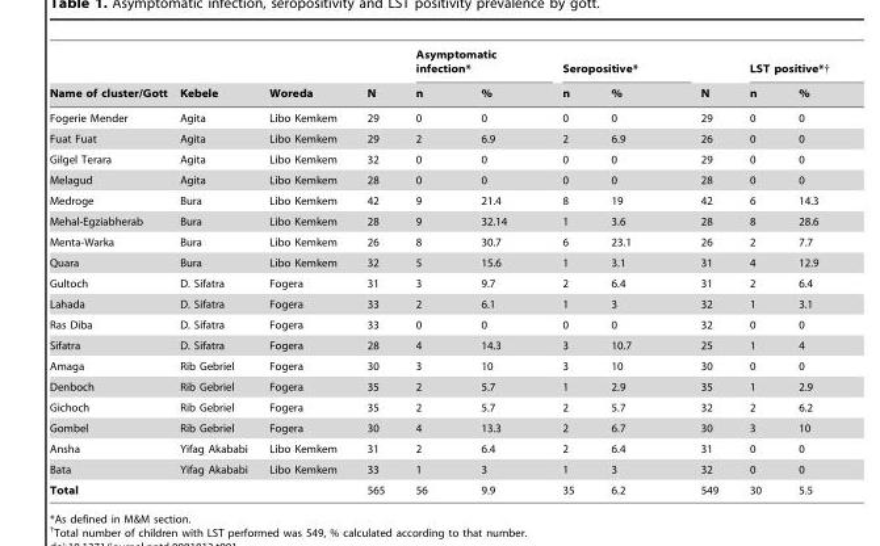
<table><thead><tr><td rowspan="2">Name of cluster/Gott</td><td rowspan="2">Kebele</td><td rowspan="2">Woreda</td><td rowspan="2">N</td><td colspan="2">Asymptomatic infection*</td><td colspan="2">Seropositive*</td><td rowspan="2">N</td><td colspan="2">LST positive*†</td></tr><tr><td>n</td><td>%</td><td>n</td><td>%</td><td>n</td><td>%</td></tr></thead><tbody><tr><td>Fogerie Mender</td><td>Agita</td><td>Libo Kemkem</td><td>29</td><td>0</td><td>0</td><td>0</td><td>0</td><td>29</td><td>0</td><td>0</td></tr><tr><td>Fuat Fuat</td><td>Agita</td><td>Libo Kemkem</td><td>29</td><td>2</td><td>6.9</td><td>2</td><td>6.9</td><td>26</td><td>0</td><td>0</td></tr><tr><td>Gilgel Terara</td><td>Agita</td><td>Libo Kemkem</td><td>32</td><td>0</td><td>0</td><td>0</td><td>0</td><td>29</td><td>0</td><td>0</td></tr><tr><td>Melagud</td><td>Agita</td><td>Libo Kemkem</td><td>28</td><td>0</td><td>0</td><td>0</td><td>0</td><td>28</td><td>0</td><td>0</td></tr><tr><td>Medroge</td><td>Bura</td><td>Libo Kemkem</td><td>42</td><td>9</td><td>21.4</td><td>8</td><td>19</td><td>42</td><td>6</td><td>14.3</td></tr><tr><td>Mehal-Egziabherab</td><td>Bura</td><td>Libo Kemkem</td><td>28</td><td>9</td><td>32.14</td><td>1</td><td>3.6</td><td>28</td><td>8</td><td>28.6</td></tr><tr><td>Menta-Warka</td><td>Bura</td><td>Libo Kemkem</td><td>26</td><td>8</td><td>30.7</td><td>6</td><td>23.1</td><td>26</td><td>2</td><td>7.7</td></tr><tr><td>Quara</td><td>Bura</td><td>Libo Kemkem</td><td>32</td><td>5</td><td>15.6</td><td>1</td><td>3.1</td><td>31</td><td>4</td><td>12.9</td></tr><tr><td>Gultoch</td><td>D. Sifatra</td><td>Fogera</td><td>31</td><td>3</td><td>9.7</td><td>2</td><td>6.4</td><td>31</td><td>2</td><td>6.4</td></tr><tr><td>Lahada</td><td>D. Sifatra</td><td>Fogera</td><td>33</td><td>2</td><td>6.1</td><td>1</td><td>3</td><td>32</td><td>1</td><td>3.1</td></tr><tr><td>Ras Diba</td><td>D. Sifatra</td><td>Fogera</td><td>33</td><td>0</td><td>0</td><td>0</td><td>0</td><td>32</td><td>0</td><td>0</td></tr><tr><td>Sifatra</td><td>D. Sifatra</td><td>Fogera</td><td>28</td><td>4</td><td>14.3</td><td>3</td><td>10.7</td><td>25</td><td>1</td><td>4</td></tr><tr><td>Amaga</td><td>Rib Gebriel</td><td>Fogera</td><td>30</td><td>3</td><td>10</td><td>3</td><td>10</td><td>30</td><td>0</td><td>0</td></tr><tr><td>Denboch</td><td>Rib Gebriel</td><td>Fogera</td><td>35</td><td>2</td><td>5.7</td><td>1</td><td>2.9</td><td>35</td><td>1</td><td>2.9</td></tr><tr><td>Gichoch</td><td>Rib Gebriel</td><td>Fogera</td><td>35</td><td>2</td><td>5.7</td><td>2</td><td>5.7</td><td>32</td><td>2</td><td>6.2</td></tr><tr><td>Gombel</td><td>Rib Gebriel</td><td>Fogera</td><td>30</td><td>4</td><td>13.3</td><td>2</td><td>6.7</td><td>30</td><td>3</td><td>10</td></tr><tr><td>Ansha</td><td>Yifag Akababi</td><td>Libo Kemkem</td><td>31</td><td>2</td><td>6.4</td><td>2</td><td>6.4</td><td>31</td><td>0</td><td>0</td></tr><tr><td>Bata</td><td>Yifag Akababi</td><td>Libo Kemkem</td><td>33</td><td>1</td><td>3</td><td>1</td><td>3</td><td>32</td><td>0</td><td>0</td></tr><tr><td>Total</td><td></td><td></td><td>565</td><td>56</td><td>9.9</td><td>35</td><td>6.2</td><td>549</td><td>30</td><td>5.5</td></tr></tbody></table>